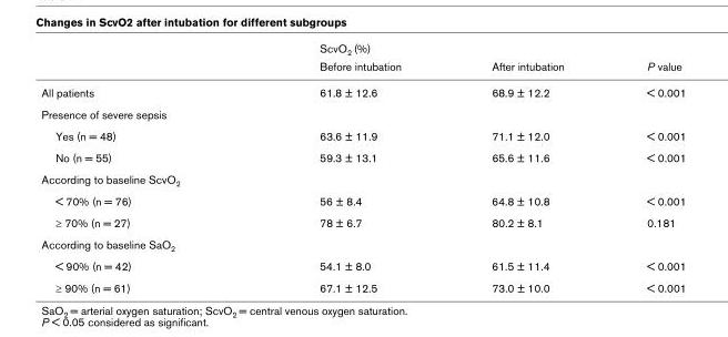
<table><thead><tr><td rowspan="2"></td><td rowspan="2">ScvO<sub>2</sub> (%) Before intubation</td><td rowspan="2">After intubation</td><td rowspan="2">P value</td></tr><tr></tr></thead><tbody><tr><td>All patients</td><td>61.8 ± 12.6</td><td>68.9 ± 12.2</td><td>&lt; 0.001</td></tr><tr><td colspan="4">Presence of severe sepsis</td></tr><tr><td>Yes (n = 48)</td><td>63.6 ± 11.9</td><td>71.1 ± 12.0</td><td>&lt; 0.001</td></tr><tr><td>No (n = 55)</td><td>59.3 ± 13.1</td><td>65.6 ± 11.6</td><td>&lt; 0.001</td></tr><tr><td colspan="4">According to baseline ScvO<sub>2</sub></td></tr><tr><td>&lt; 70% (n = 76)</td><td>56 ± 8.4</td><td>64.8 ± 10.8</td><td>&lt; 0.001</td></tr><tr><td>≥ 70% (n = 27)</td><td>78 ± 6.7</td><td>80.2 ± 8.1</td><td>0.181</td></tr><tr><td colspan="4">According to baseline SaO<sub>2</sub></td></tr><tr><td>&lt; 90% (n = 42)</td><td>54.1 ± 8.0</td><td>61.5 ± 11.4</td><td>&lt; 0.001</td></tr><tr><td>≥ 90% (n = 61)</td><td>67.1 ± 12.5</td><td>73.0 ± 10.0</td><td>&lt; 0.001</td></tr></tbody></table>